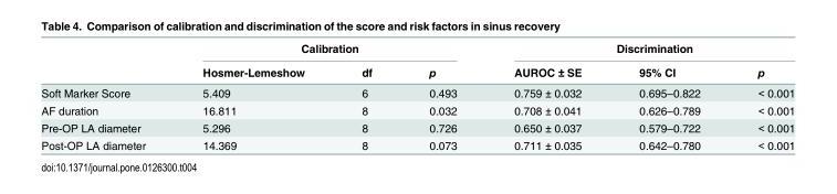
<table><thead><tr><td rowspan="2"></td><td colspan="3">Calibration</td><td colspan="3">Discrimination</td></tr><tr><td>Hosmer-Lemeshow</td><td>df</td><td>p</td><td>AUROC ± SE</td><td>95% CI</td><td>p</td></tr></thead><tbody><tr><td>Soft Marker Score</td><td>5.409</td><td>6</td><td>0.493</td><td>0.759 ± 0.032</td><td>0.695–0.822</td><td>&lt; 0.001</td></tr><tr><td>AF duration</td><td>16.811</td><td>8</td><td>0.032</td><td>0.708 ± 0.041</td><td>0.626–0.789</td><td>&lt; 0.001</td></tr><tr><td>Pre-OP LA diameter</td><td>5.296</td><td>8</td><td>0.726</td><td>0.650 ± 0.037</td><td>0.579–0.722</td><td>&lt; 0.001</td></tr><tr><td>Post-OP LA diameter</td><td>14.369</td><td>8</td><td>0.073</td><td>0.711 ± 0.035</td><td>0.642–0.780</td><td>&lt; 0.001</td></tr></tbody></table>